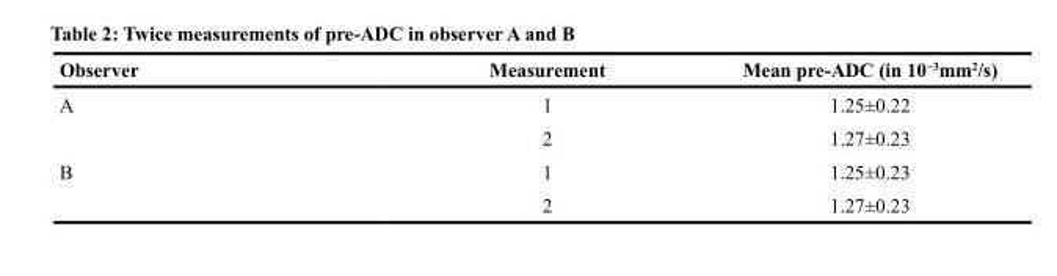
<table><thead><tr><td>Observer</td><td>Measurement</td><td>Mean pre-ADC (in 10<sup>−3</sup>mm<sup>2</sup>/s)</td></tr></thead><tbody><tr><td rowspan="2">A</td><td>1</td><td>1.25±0.22</td></tr><tr><td>2</td><td>1.27±0.23</td></tr><tr><td rowspan="2">B</td><td>1</td><td>1.25±0.23</td></tr><tr><td>2</td><td>1.27±0.23</td></tr></tbody></table>